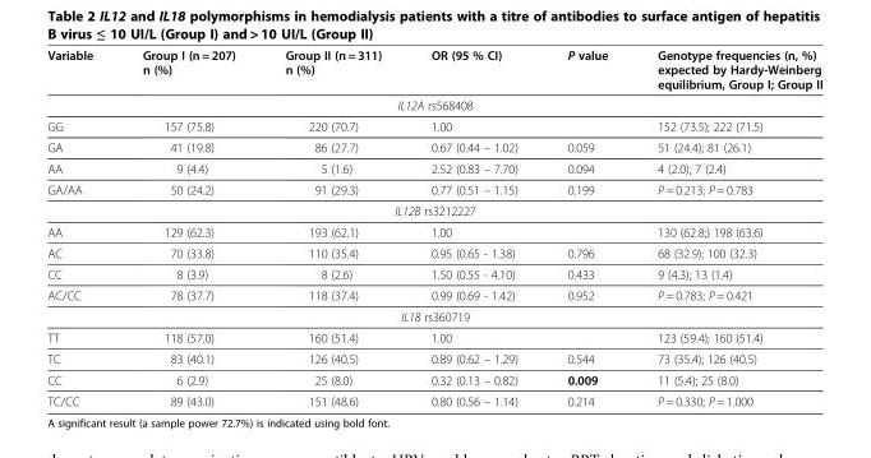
<table><thead><tr><td>Variable</td><td>Group I (n = 207) n (%)</td><td>Group II (n = 311) n (%)</td><td>OR (95 % CI)</td><td>P value</td><td>Genotype frequencies (n, %) expected by Hardy-Weinberg equilibrium, Group I; Group II</td></tr></thead><tbody><tr><td colspan="6">IL12A rs568408</td></tr><tr><td>GG</td><td>157 (75.8)</td><td>220 (70.7)</td><td>1.00</td><td></td><td>152 (73.5); 222 (71.5)</td></tr><tr><td>GA</td><td>41 (19.8)</td><td>86 (27.7)</td><td>0.67 (0.44 – 1.02)</td><td>0.059</td><td>51 (24.4); 81 (26.1)</td></tr><tr><td>AA</td><td>9 (4.4)</td><td>5 (1.6)</td><td>2.52 (0.83 – 7.70)</td><td>0.094</td><td>4 (2.0); 7 (2.4)</td></tr><tr><td>GA/AA</td><td>50 (24.2)</td><td>91 (29.3)</td><td>0.77 (0.51 – 1.15)</td><td>0.199</td><td>P = 0.213; P = 0.783</td></tr><tr><td colspan="6">IL12B rs3212227</td></tr><tr><td>AA</td><td>129 (62.3)</td><td>193 (62.1)</td><td>1.00</td><td></td><td>130 (62.8;) 198 (63.6)</td></tr><tr><td>AC</td><td>70 (33.8)</td><td>110 (35.4)</td><td>0.95 (0.65 - 1.38)</td><td>0.796</td><td>68 (32.9); 100 (32.3)</td></tr><tr><td>CC</td><td>8 (3.9)</td><td>8 (2.6)</td><td>1.50 (0.55 - 4.10)</td><td>0.433</td><td>9 (4.3); 13 (1.4)</td></tr><tr><td>AC/CC</td><td>78 (37.7)</td><td>118 (37.4)</td><td>0.99 (0.69 - 1.42)</td><td>0.952</td><td>P = 0.783; P = 0.421</td></tr><tr><td colspan="6">IL18 rs360719</td></tr><tr><td>TT</td><td>118 (57.0)</td><td>160 (51.4)</td><td>1.00</td><td></td><td>123 (59.4); 160 (51.4)</td></tr><tr><td>TC</td><td>83 (40.1)</td><td>126 (40.5)</td><td>0.89 (0.62 – 1.29)</td><td>0.544</td><td>73 (35.4); 126 (40.5)</td></tr><tr><td>CC</td><td>6 (2.9)</td><td>25 (8.0)</td><td>0.32 (0.13 – 0.82)</td><td>0.009</td><td>11 (5.4); 25 (8.0)</td></tr><tr><td>TC/CC</td><td>89 (43.0)</td><td>151 (48.6)</td><td>0.80 (0.56 – 1.14)</td><td>0.214</td><td>P = 0.330; P = 1.000</td></tr></tbody></table>